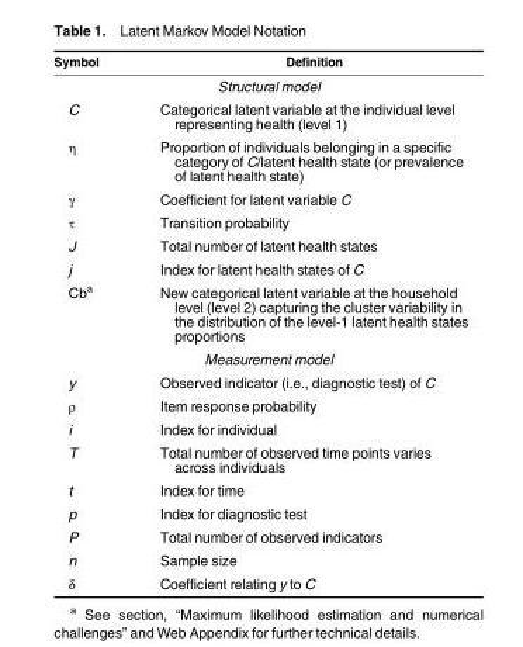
<table><thead><tr><td>Symbol</td><td>Definition</td></tr></thead><tbody><tr><td colspan="2">Structural model</td></tr><tr><td>C</td><td>Categorical latent variable at the individual level representing health (level 1)</td></tr><tr><td>η</td><td>Proportion of individuals belonging in a specific category of C/latent health state (or prevalence of latent health state)</td></tr><tr><td>γ</td><td>Coefficient for latent variable C</td></tr><tr><td>τ</td><td>Transition probability</td></tr><tr><td>J</td><td>Total number of latent health states</td></tr><tr><td>j</td><td>Index for latent health states of C</td></tr><tr><td>Cb<sup>a</sup></td><td>New categorical latent variable at the household level (level 2) capturing the cluster variability in the distribution of the level-1 latent health states proportions</td></tr><tr><td colspan="2">Measurement model</td></tr><tr><td>y</td><td>Observed indicator (i.e., diagnostic test) of C</td></tr><tr><td>ρ</td><td>Item response probability</td></tr><tr><td>i</td><td>Index for individual</td></tr><tr><td>T</td><td>Total number of observed time points varies across individuals</td></tr><tr><td>t</td><td>Index for time</td></tr><tr><td>p</td><td>Index for diagnostic test</td></tr><tr><td>P</td><td>Total number of observed indicators</td></tr><tr><td>n</td><td>Sample size</td></tr><tr><td>δ</td><td>Coefficient relating y to C</td></tr></tbody></table>